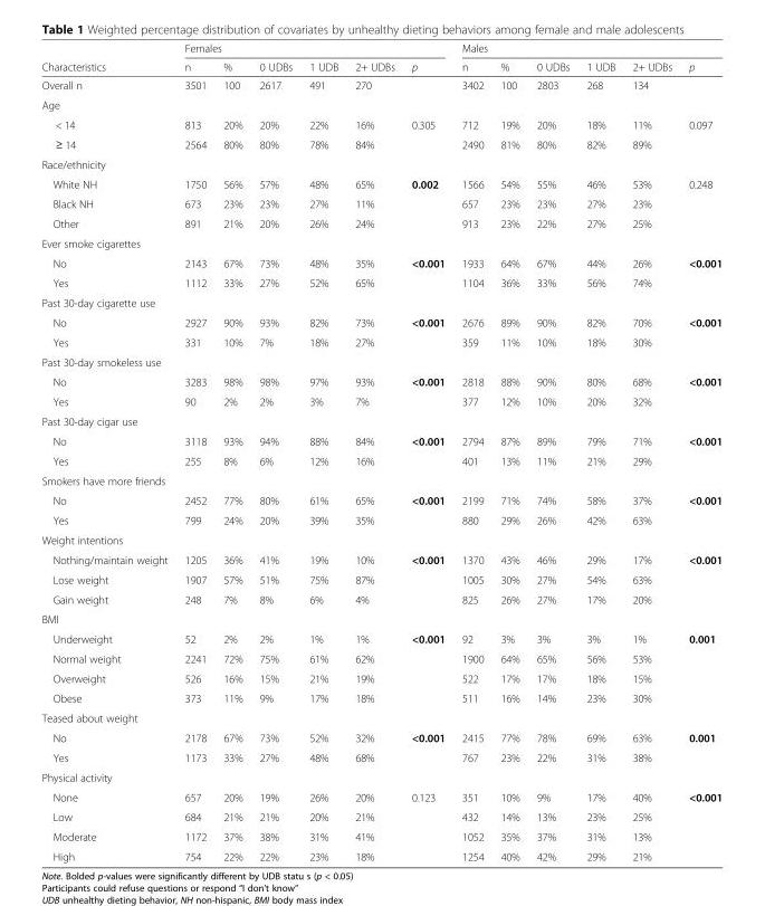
<table><thead><tr><td rowspan="2">Characteristics</td><td colspan="6">Females</td><td colspan="6">Males</td></tr><tr><td>n</td><td>%</td><td>0 UDBs</td><td>1 UDB</td><td>2+ UDBs</td><td>p</td><td>n</td><td>%</td><td>0 UDBs</td><td>1 UDB</td><td>2+ UDBs</td><td>p</td></tr></thead><tbody><tr><td>Overall n</td><td>3501</td><td>100</td><td>2617</td><td>491</td><td>270</td><td></td><td>3402</td><td>100</td><td>2803</td><td>268</td><td>134</td><td></td></tr><tr><td colspan="13">Age</td></tr><tr><td>&lt; 14</td><td>813</td><td>20%</td><td>20%</td><td>22%</td><td>16%</td><td>0.305</td><td>712</td><td>19%</td><td>20%</td><td>18%</td><td>11%</td><td>0.097</td></tr><tr><td>≥ 14</td><td>2564</td><td>80%</td><td>80%</td><td>78%</td><td>84%</td><td></td><td>2490</td><td>81%</td><td>80%</td><td>82%</td><td>89%</td><td></td></tr><tr><td colspan="13">Race/ethnicity</td></tr><tr><td>White NH</td><td>1750</td><td>56%</td><td>57%</td><td>48%</td><td>65%</td><td>0.002</td><td>1566</td><td>54%</td><td>55%</td><td>46%</td><td>53%</td><td>0.248</td></tr><tr><td>Black NH</td><td>673</td><td>23%</td><td>23%</td><td>27%</td><td>11%</td><td></td><td>657</td><td>23%</td><td>23%</td><td>27%</td><td>23%</td><td></td></tr><tr><td>Other</td><td>891</td><td>21%</td><td>20%</td><td>26%</td><td>24%</td><td></td><td>913</td><td>23%</td><td>22%</td><td>27%</td><td>25%</td><td></td></tr><tr><td colspan="13">Ever smoke cigarettes</td></tr><tr><td>No</td><td>2143</td><td>67%</td><td>73%</td><td>48%</td><td>35%</td><td>&lt;0.001</td><td>1933</td><td>64%</td><td>67%</td><td>44%</td><td>26%</td><td>&lt;0.001</td></tr><tr><td>Yes</td><td>1112</td><td>33%</td><td>27%</td><td>52%</td><td>65%</td><td></td><td>1104</td><td>36%</td><td>33%</td><td>56%</td><td>74%</td><td></td></tr><tr><td colspan="13">Past 30-day cigarette use</td></tr><tr><td>No</td><td>2927</td><td>90%</td><td>93%</td><td>82%</td><td>73%</td><td>&lt;0.001</td><td>2676</td><td>89%</td><td>90%</td><td>82%</td><td>70%</td><td>&lt;0.001</td></tr><tr><td>Yes</td><td>331</td><td>10%</td><td>7%</td><td>18%</td><td>27%</td><td></td><td>359</td><td>11%</td><td>10%</td><td>18%</td><td>30%</td><td></td></tr><tr><td colspan="13">Past 30-day smokeless use</td></tr><tr><td>No</td><td>3283</td><td>98%</td><td>98%</td><td>97%</td><td>93%</td><td>&lt;0.001</td><td>2818</td><td>88%</td><td>90%</td><td>80%</td><td>68%</td><td>&lt;0.001</td></tr><tr><td>Yes</td><td>90</td><td>2%</td><td>2%</td><td>3%</td><td>7%</td><td></td><td>377</td><td>12%</td><td>10%</td><td>20%</td><td>32%</td><td></td></tr><tr><td colspan="13">Past 30-day cigar use</td></tr><tr><td>No</td><td>3118</td><td>93%</td><td>94%</td><td>88%</td><td>84%</td><td>&lt;0.001</td><td>2794</td><td>87%</td><td>89%</td><td>79%</td><td>71%</td><td>&lt;0.001</td></tr><tr><td>Yes</td><td>255</td><td>8%</td><td>6%</td><td>12%</td><td>16%</td><td></td><td>401</td><td>13%</td><td>11%</td><td>21%</td><td>29%</td><td></td></tr><tr><td colspan="13">Smokers have more friends</td></tr><tr><td>No</td><td>2452</td><td>77%</td><td>80%</td><td>61%</td><td>65%</td><td>&lt;0.001</td><td>2199</td><td>71%</td><td>74%</td><td>58%</td><td>37%</td><td>&lt;0.001</td></tr><tr><td>Yes</td><td>799</td><td>24%</td><td>20%</td><td>39%</td><td>35%</td><td></td><td>880</td><td>29%</td><td>26%</td><td>42%</td><td>63%</td><td></td></tr><tr><td colspan="13">Weight intentions</td></tr><tr><td>Nothing/maintain weight</td><td>1205</td><td>36%</td><td>41%</td><td>19%</td><td>10%</td><td>&lt;0.001</td><td>1370</td><td>43%</td><td>46%</td><td>29%</td><td>17%</td><td>&lt;0.001</td></tr><tr><td>Lose weight</td><td>1907</td><td>57%</td><td>51%</td><td>75%</td><td>87%</td><td></td><td>1005</td><td>30%</td><td>27%</td><td>54%</td><td>63%</td><td></td></tr><tr><td>Gain weight</td><td>248</td><td>7%</td><td>8%</td><td>6%</td><td>4%</td><td></td><td>825</td><td>26%</td><td>27%</td><td>17%</td><td>20%</td><td></td></tr><tr><td colspan="13">BMI</td></tr><tr><td>Underweight</td><td>52</td><td>2%</td><td>2%</td><td>1%</td><td>1%</td><td>&lt;0.001</td><td>92</td><td>3%</td><td>3%</td><td>3%</td><td>1%</td><td>0.001</td></tr><tr><td>Normal weight</td><td>2241</td><td>72%</td><td>75%</td><td>61%</td><td>62%</td><td></td><td>1900</td><td>64%</td><td>65%</td><td>56%</td><td>53%</td><td></td></tr><tr><td>Overweight</td><td>526</td><td>16%</td><td>15%</td><td>21%</td><td>19%</td><td></td><td>522</td><td>17%</td><td>17%</td><td>18%</td><td>15%</td><td></td></tr><tr><td>Obese</td><td>373</td><td>11%</td><td>9%</td><td>17%</td><td>18%</td><td></td><td>511</td><td>16%</td><td>14%</td><td>23%</td><td>30%</td><td></td></tr><tr><td colspan="13">Teased about weight</td></tr><tr><td>No</td><td>2178</td><td>67%</td><td>73%</td><td>52%</td><td>32%</td><td>&lt;0.001</td><td>2415</td><td>77%</td><td>78%</td><td>69%</td><td>63%</td><td>0.001</td></tr><tr><td>Yes</td><td>1173</td><td>33%</td><td>27%</td><td>48%</td><td>68%</td><td></td><td>767</td><td>23%</td><td>22%</td><td>31%</td><td>38%</td><td></td></tr><tr><td colspan="13">Physical activity</td></tr><tr><td>None</td><td>657</td><td>20%</td><td>19%</td><td>26%</td><td>20%</td><td>0.123</td><td>351</td><td>10%</td><td>9%</td><td>17%</td><td>40%</td><td>&lt;0.001</td></tr><tr><td>Low</td><td>684</td><td>21%</td><td>21%</td><td>20%</td><td>21%</td><td></td><td>432</td><td>14%</td><td>13%</td><td>23%</td><td>25%</td><td></td></tr><tr><td>Moderate</td><td>1172</td><td>37%</td><td>38%</td><td>31%</td><td>41%</td><td></td><td>1052</td><td>35%</td><td>37%</td><td>31%</td><td>13%</td><td></td></tr><tr><td>High</td><td>754</td><td>22%</td><td>22%</td><td>23%</td><td>18%</td><td></td><td>1254</td><td>40%</td><td>42%</td><td>29%</td><td>21%</td><td></td></tr></tbody></table>